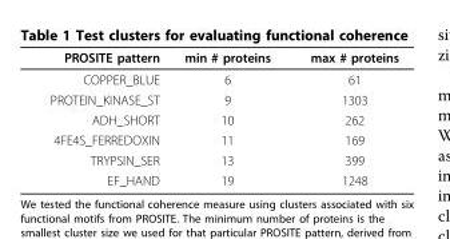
<table><thead><tr><td>PROSITE pattern</td><td>min # proteins</td><td>max # proteins</td></tr></thead><tbody><tr><td>COPPER_BLUE</td><td>6</td><td>61</td></tr><tr><td>PROTEIN_KINASE_ST</td><td>9</td><td>1303</td></tr><tr><td>ADH_SHORT</td><td>10</td><td>262</td></tr><tr><td>4FE4S_FERREDOXIN</td><td>11</td><td>169</td></tr><tr><td>TRYPSIN_SER</td><td>13</td><td>399</td></tr><tr><td>EF_HAND</td><td>19</td><td>1248</td></tr></tbody></table>